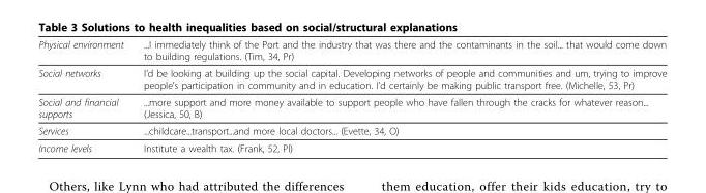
<table><thead><tr><td>Physical environment</td><td>...I immediately think of the Port and the industry that was there and the contaminants in the soil... that would come down to building regulations. (Tim, 34, Pr)</td></tr></thead><tbody><tr><td>Social networks</td><td>I’d be looking at building up the social capital. Developing networks of people and communities and um, trying to improve people’s participation in community and in education. I’d certainly be making public transport free. (Michelle, 53, Pr)</td></tr><tr><td>Social and financial supports</td><td>...more support and more money available to support people who have fallen through the cracks for whatever reason... (Jessica, 50, B)</td></tr><tr><td>Services</td><td>...childcare...transport...and more local doctors... (Evette, 34, O)</td></tr><tr><td>Income levels</td><td>Institute a wealth tax. (Frank, 52, Pl)</td></tr></tbody></table>